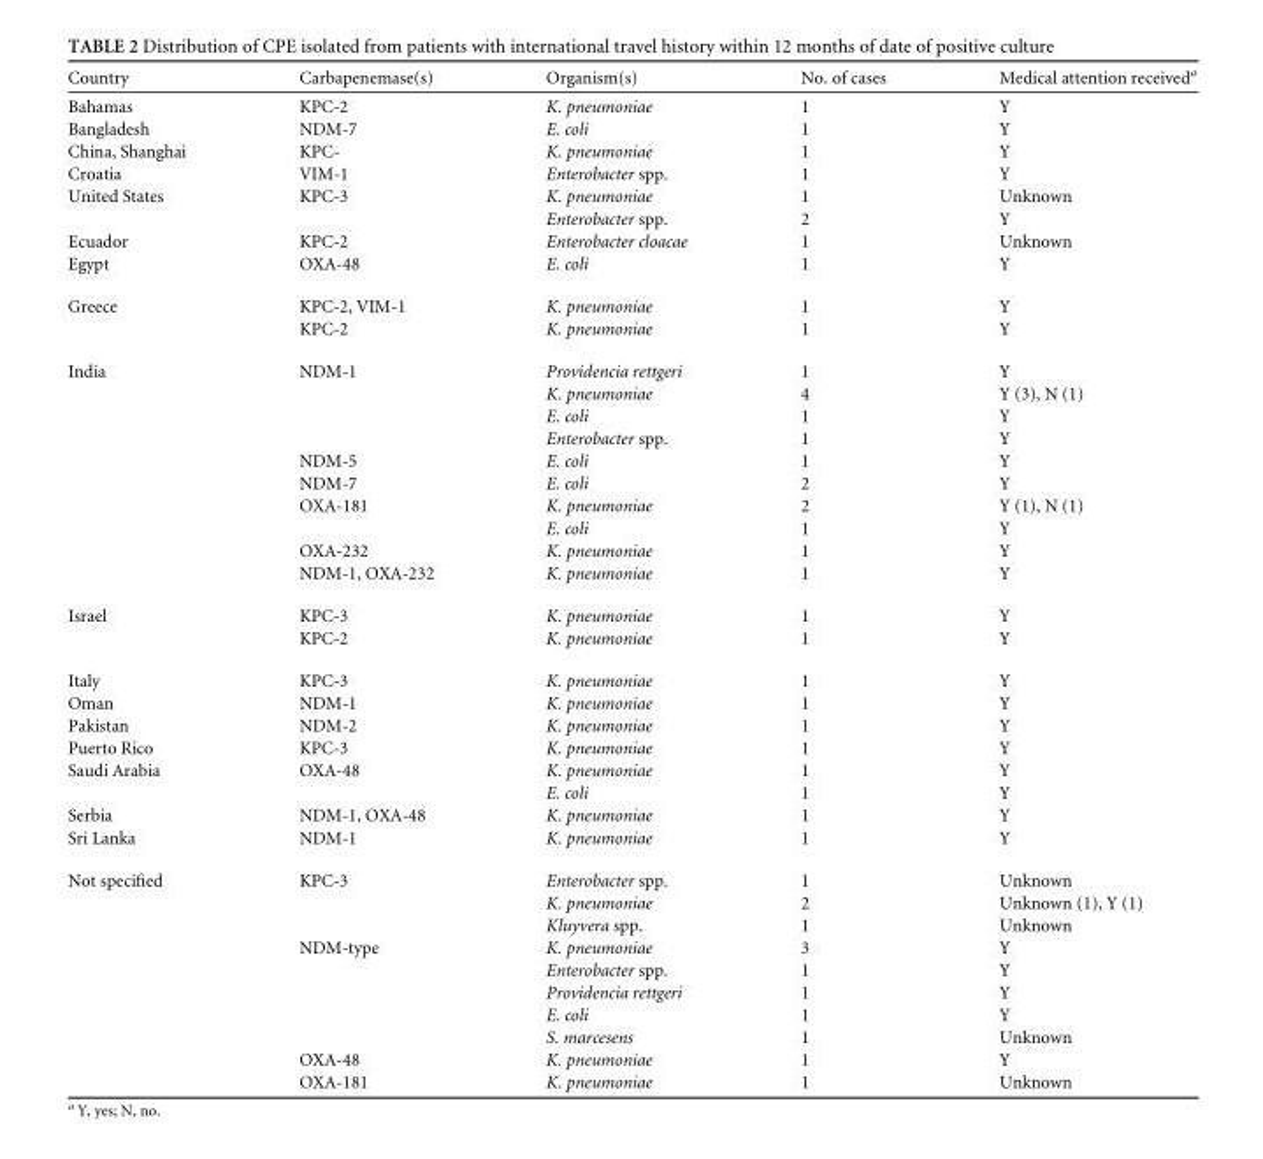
<table><thead><tr><td>Country</td><td>Carbapenemase(s)</td><td>Organism(s)</td><td>No. of cases</td><td>Medical attention received<sup>a</sup></td></tr></thead><tbody><tr><td>Bahamas</td><td>KPC-2</td><td>K. pneumoniae</td><td>1</td><td>Y</td></tr><tr><td>Bangladesh</td><td>NDM-7</td><td>E. coli</td><td>1</td><td>Y</td></tr><tr><td>China, Shanghai</td><td>KPC-</td><td>K. pneumoniae</td><td>1</td><td>Y</td></tr><tr><td>Croatia</td><td>VIM-1</td><td>Enterobacter spp.</td><td>1</td><td>Y</td></tr><tr><td rowspan="2">United States</td><td>KPC-3</td><td>K. pneumoniae</td><td>1</td><td>Unknown</td></tr><tr><td></td><td>Enterobacter spp.</td><td>2</td><td>Y</td></tr><tr><td>Ecuador</td><td>KPC-2</td><td>Enterobacter cloacae</td><td>1</td><td>Unknown</td></tr><tr><td>Egypt</td><td>OXA-48</td><td>E. coli</td><td>1</td><td>Y</td></tr><tr><td rowspan="2">Greece</td><td>KPC-2, VIM-1</td><td>K. pneumoniae</td><td>1</td><td>Y</td></tr><tr><td>KPC-2</td><td>K. pneumoniae</td><td>1</td><td>Y</td></tr><tr><td rowspan="10">India</td><td>NDM-1</td><td>Providencia rettgeri</td><td>1</td><td>Y</td></tr><tr><td></td><td>K. pneumoniae</td><td>4</td><td>Y (3), N (1)</td></tr><tr><td></td><td>E. coli</td><td>1</td><td>Y</td></tr><tr><td></td><td>Enterobacter spp.</td><td>1</td><td>Y</td></tr><tr><td>NDM-5</td><td>E. coli</td><td>1</td><td>Y</td></tr><tr><td>NDM-7</td><td>E. coli</td><td>2</td><td>Y</td></tr><tr><td>OXA-181</td><td>K. pneumoniae</td><td>2</td><td>Y (1), N (1)</td></tr><tr><td></td><td>E. coli</td><td>1</td><td>Y</td></tr><tr><td>OXA-232</td><td>K. pneumoniae</td><td>1</td><td>Y</td></tr><tr><td>NDM-1, OXA-232</td><td>K. pneumoniae</td><td>1</td><td>Y</td></tr><tr><td rowspan="2">Israel</td><td>KPC-3</td><td>K. pneumoniae</td><td>1</td><td>Y</td></tr><tr><td>KPC-2</td><td>K. pneumoniae</td><td>1</td><td>Y</td></tr><tr><td>Italy</td><td>KPC-3</td><td>K. pneumoniae</td><td>1</td><td>Y</td></tr><tr><td>Oman</td><td>NDM-1</td><td>K. pneumoniae</td><td>1</td><td>Y</td></tr><tr><td>Pakistan</td><td>NDM-2</td><td>K. pneumoniae</td><td>1</td><td>Y</td></tr><tr><td>Puerto Rico</td><td>KPC-3</td><td>K. pneumoniae</td><td>1</td><td>Y</td></tr><tr><td rowspan="2">Saudi Arabia</td><td>OXA-48</td><td>K. pneumoniae</td><td>1</td><td>Y</td></tr><tr><td></td><td>E. coli</td><td>1</td><td>Y</td></tr><tr><td>Serbia</td><td>NDM-1, OXA-48</td><td>K. pneumoniae</td><td>1</td><td>Y</td></tr><tr><td>Sri Lanka</td><td>NDM-1</td><td>K. pneumoniae</td><td>1</td><td>Y</td></tr><tr><td rowspan="10">Not specified</td><td>KPC-3</td><td>Enterobacter spp.</td><td>1</td><td>Unknown</td></tr><tr><td></td><td>K. pneumoniae</td><td>2</td><td>Unknown (1), Y (1)</td></tr><tr><td></td><td>Kluyvera spp.</td><td>1</td><td>Unknown</td></tr><tr><td>NDM-type</td><td>K. pneumoniae</td><td>3</td><td>Y</td></tr><tr><td></td><td>Enterobacter spp.</td><td>1</td><td>Y</td></tr><tr><td></td><td>Providencia rettgeri</td><td>1</td><td>Y</td></tr><tr><td></td><td>E. coli</td><td>1</td><td>Y</td></tr><tr><td></td><td>S. marcesens</td><td>1</td><td>Unknown</td></tr><tr><td>OXA-48</td><td>K. pneumoniae</td><td>1</td><td>Y</td></tr><tr><td>OXA-181</td><td>K. pneumoniae</td><td>1</td><td>Unknown</td></tr></tbody></table>